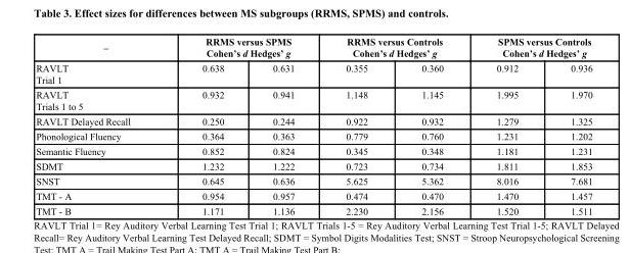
<table><thead><tr><td rowspan="2">– RAVLT Trial 1</td><td colspan="2">RRMS versus SPMS Cohen’s d Hedges’ g</td><td colspan="2">RRMS versus Controls Cohen’s d Hedges’ g</td><td colspan="2">SPMS versus Controls Cohen’s d Hedges’ g</td></tr><tr><td>0.638</td><td>0.631</td><td>0.355</td><td>0.360</td><td>0.912</td><td>0.936</td></tr></thead><tbody><tr><td>RAVLT Trials 1 to 5</td><td>0.932</td><td>0.941</td><td>1.148</td><td>1.145</td><td>1.995</td><td>1.970</td></tr><tr><td>RAVLT Delayed Recall</td><td>0.250</td><td>0.244</td><td>0.922</td><td>0.932</td><td>1.279</td><td>1.325</td></tr><tr><td>Phonological Fluency</td><td>0.364</td><td>0.363</td><td>0.779</td><td>0.760</td><td>1.231</td><td>1.202</td></tr><tr><td>Semantic Fluency</td><td>0.852</td><td>0.824</td><td>0.345</td><td>0.348</td><td>1.181</td><td>1.231</td></tr><tr><td>SDMT</td><td>1.232</td><td>1.222</td><td>0.723</td><td>0.734</td><td>1.811</td><td>1.853</td></tr><tr><td>SNST</td><td>0.645</td><td>0.636</td><td>5.625</td><td>5.362</td><td>8.016</td><td>7.681</td></tr><tr><td>TMT - A</td><td>0.954</td><td>0.957</td><td>0.474</td><td>0.470</td><td>1.470</td><td>1.457</td></tr><tr><td>TMT - B</td><td>1.171</td><td>1.136</td><td>2.230</td><td>2.156</td><td>1.520</td><td>1.511</td></tr></tbody></table>